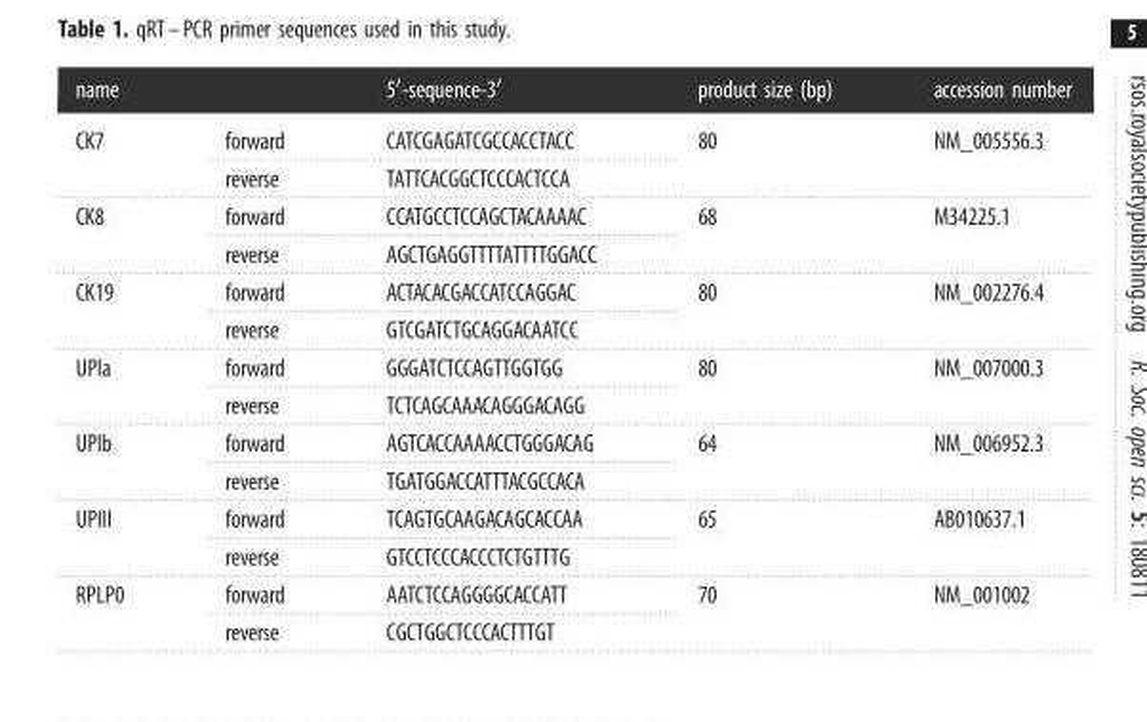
<table><thead><tr><td>name</td><td></td><td>5′-sequence-3′</td><td>product size (bp)</td><td>accession number</td></tr></thead><tbody><tr><td rowspan="2">CK7</td><td>forward</td><td>CATCGAGATCGCCACCTACC</td><td rowspan="2">80</td><td rowspan="2">NM_005556.3</td></tr><tr><td>reverse</td><td>TATTCACGGCTCCCACTCCA</td></tr><tr><td rowspan="2">CK8</td><td>forward</td><td>CCATGCCTCCAGCTACAAAAC</td><td rowspan="2">68</td><td rowspan="2">M34225.1</td></tr><tr><td>reverse</td><td>AGCTGAGGTTTTATTTTGGACC</td></tr><tr><td rowspan="2">CK19</td><td>forward</td><td>ACTACACGACCATCCAGGAC</td><td rowspan="2">80</td><td rowspan="2">NM_002276.4</td></tr><tr><td>reverse</td><td>GTCGATCTGCAGGACAATCC</td></tr><tr><td rowspan="2">UPla</td><td>forward</td><td>GGGATCTCCAGTTGGTGG</td><td rowspan="2">80</td><td rowspan="2">NM_007000.3</td></tr><tr><td>reverse</td><td>TCTCAGCAAACAGGGACAGG</td></tr><tr><td rowspan="2">UPlb</td><td>forward</td><td>AGTCACCAAAACCTGGGACAG</td><td rowspan="2">64</td><td rowspan="2">NM_006952.3</td></tr><tr><td>reverse</td><td>TGATGGACCATTTACGCCACA</td></tr><tr><td rowspan="2">UPIII</td><td>forward</td><td>TCAGTGCAAGACAGCACCAA</td><td rowspan="2">65</td><td rowspan="2">AB010637.1</td></tr><tr><td>reverse</td><td>GTCCTCCCACCCTCTGTTTG</td></tr><tr><td rowspan="2">RPLP0</td><td>forward</td><td>AATCTCCAGGGGCACCATT</td><td rowspan="2">70</td><td rowspan="2">NM_001002</td></tr><tr><td>reverse</td><td>CGCTGGCTCCCACTTTGT</td></tr></tbody></table>